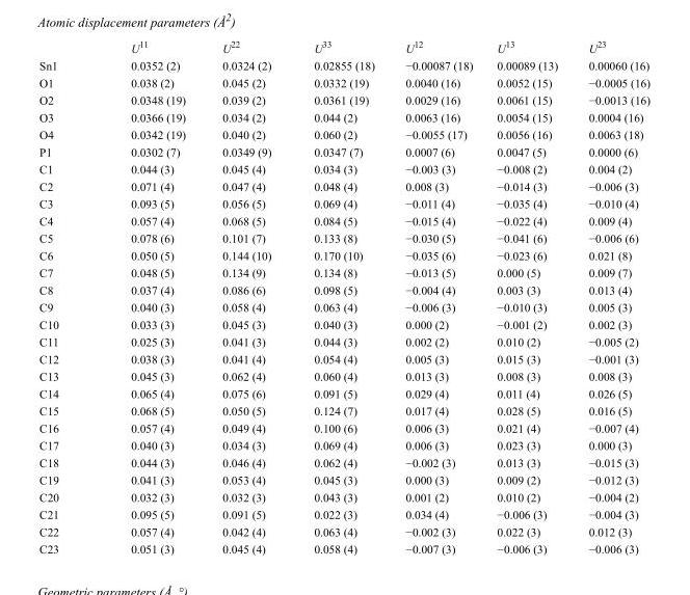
<table><thead><tr><td></td><td>U<sup>11</sup></td><td>U<sup>22</sup></td><td>U<sup>33</sup></td><td>U<sup>12</sup></td><td>U<sup>13</sup></td><td>U<sup>23</sup></td></tr></thead><tbody><tr><td>Sn1</td><td>0.0352 (2)</td><td>0.0324 (2)</td><td>0.02855 (18)</td><td>−0.00087 (18)</td><td>0.00089 (13)</td><td>0.00060 (16)</td></tr><tr><td>O1</td><td>0.038 (2)</td><td>0.045 (2)</td><td>0.0332 (19)</td><td>0.0040 (16)</td><td>0.0052 (15)</td><td>−0.0005 (16)</td></tr><tr><td>O2</td><td>0.0348 (19)</td><td>0.039 (2)</td><td>0.0361 (19)</td><td>0.0029 (16)</td><td>0.0061 (15)</td><td>−0.0013 (16)</td></tr><tr><td>O3</td><td>0.0366 (19)</td><td>0.034 (2)</td><td>0.044 (2)</td><td>0.0063 (16)</td><td>0.0054 (15)</td><td>0.0004 (16)</td></tr><tr><td>O4</td><td>0.0342 (19)</td><td>0.040 (2)</td><td>0.060 (2)</td><td>−0.0055 (17)</td><td>0.0056 (16)</td><td>0.0063 (18)</td></tr><tr><td>P1</td><td>0.0302 (7)</td><td>0.0349 (9)</td><td>0.0347 (7)</td><td>0.0007 (6)</td><td>0.0047 (5)</td><td>0.0000 (6)</td></tr><tr><td>C1</td><td>0.044 (3)</td><td>0.045 (4)</td><td>0.034 (3)</td><td>−0.003 (3)</td><td>−0.008 (2)</td><td>0.004 (2)</td></tr><tr><td>C2</td><td>0.071 (4)</td><td>0.047 (4)</td><td>0.048 (4)</td><td>0.008 (3)</td><td>−0.014 (3)</td><td>−0.006 (3)</td></tr><tr><td>C3</td><td>0.093 (5)</td><td>0.056 (5)</td><td>0.069 (4)</td><td>−0.011 (4)</td><td>−0.035 (4)</td><td>−0.010 (4)</td></tr><tr><td>C4</td><td>0.057 (4)</td><td>0.068 (5)</td><td>0.084 (5)</td><td>−0.015 (4)</td><td>−0.022 (4)</td><td>0.009 (4)</td></tr><tr><td>C5</td><td>0.078 (6)</td><td>0.101 (7)</td><td>0.133 (8)</td><td>−0.030 (5)</td><td>−0.041 (6)</td><td>−0.006 (6)</td></tr><tr><td>C6</td><td>0.050 (5)</td><td>0.144 (10)</td><td>0.170 (10)</td><td>−0.035 (6)</td><td>−0.023 (6)</td><td>0.021 (8)</td></tr><tr><td>C7</td><td>0.048 (5)</td><td>0.134 (9)</td><td>0.134 (8)</td><td>−0.013 (5)</td><td>0.000 (5)</td><td>0.009 (7)</td></tr><tr><td>C8</td><td>0.037 (4)</td><td>0.086 (6)</td><td>0.098 (5)</td><td>−0.004 (4)</td><td>0.003 (3)</td><td>0.013 (4)</td></tr><tr><td>C9</td><td>0.040 (3)</td><td>0.058 (4)</td><td>0.063 (4)</td><td>−0.006 (3)</td><td>−0.010 (3)</td><td>0.005 (3)</td></tr><tr><td>C10</td><td>0.033 (3)</td><td>0.045 (3)</td><td>0.040 (3)</td><td>0.000 (2)</td><td>−0.001 (2)</td><td>0.002 (3)</td></tr><tr><td>C11</td><td>0.025 (3)</td><td>0.041 (3)</td><td>0.044 (3)</td><td>0.002 (2)</td><td>0.010 (2)</td><td>−0.005 (2)</td></tr><tr><td>C12</td><td>0.038 (3)</td><td>0.041 (4)</td><td>0.054 (4)</td><td>0.005 (3)</td><td>0.015 (3)</td><td>−0.001 (3)</td></tr><tr><td>C13</td><td>0.045 (3)</td><td>0.062 (4)</td><td>0.060 (4)</td><td>0.013 (3)</td><td>0.008 (3)</td><td>0.008 (3)</td></tr><tr><td>C14</td><td>0.065 (4)</td><td>0.075 (6)</td><td>0.091 (5)</td><td>0.029 (4)</td><td>0.011 (4)</td><td>0.026 (5)</td></tr><tr><td>C15</td><td>0.068 (5)</td><td>0.050 (5)</td><td>0.124 (7)</td><td>0.017 (4)</td><td>0.028 (5)</td><td>0.016 (5)</td></tr><tr><td>C16</td><td>0.057 (4)</td><td>0.049 (4)</td><td>0.100 (6)</td><td>0.006 (3)</td><td>0.021 (4)</td><td>−0.007 (4)</td></tr><tr><td>C17</td><td>0.040 (3)</td><td>0.034 (3)</td><td>0.069 (4)</td><td>0.006 (3)</td><td>0.023 (3)</td><td>0.000 (3)</td></tr><tr><td>C18</td><td>0.044 (3)</td><td>0.046 (4)</td><td>0.062 (4)</td><td>−0.002 (3)</td><td>0.013 (3)</td><td>−0.015 (3)</td></tr><tr><td>C19</td><td>0.041 (3)</td><td>0.053 (4)</td><td>0.045 (3)</td><td>0.000 (3)</td><td>0.009 (2)</td><td>−0.012 (3)</td></tr><tr><td>C20</td><td>0.032 (3)</td><td>0.032 (3)</td><td>0.043 (3)</td><td>0.001 (2)</td><td>0.010 (2)</td><td>−0.004 (2)</td></tr><tr><td>C21</td><td>0.095 (5)</td><td>0.091 (5)</td><td>0.022 (3)</td><td>0.034 (4)</td><td>−0.006 (3)</td><td>−0.004 (3)</td></tr><tr><td>C22</td><td>0.057 (4)</td><td>0.042 (4)</td><td>0.063 (4)</td><td>−0.002 (3)</td><td>0.022 (3)</td><td>0.012 (3)</td></tr><tr><td>C23</td><td>0.051 (3)</td><td>0.045 (4)</td><td>0.058 (4)</td><td>−0.007 (3)</td><td>−0.006 (3)</td><td>−0.006 (3)</td></tr></tbody></table>